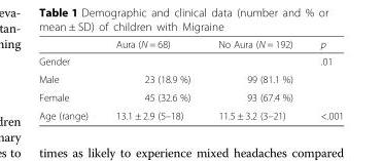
<table><thead><tr><td></td><td>Aura (N = 68)</td><td>No Aura (N = 192)</td><td>p</td></tr></thead><tbody><tr><td>Gender</td><td></td><td></td><td>.01</td></tr><tr><td>Male</td><td>23 (18.9 %)</td><td>99 (81.1 %)</td><td></td></tr><tr><td>Female</td><td>45 (32.6 %)</td><td>93 (67.4 %)</td><td></td></tr><tr><td>Age (range)</td><td>13.1 ± 2.9 (5–18)</td><td>11.5 ± 3.2 (3–21)</td><td>&lt;.001</td></tr></tbody></table>